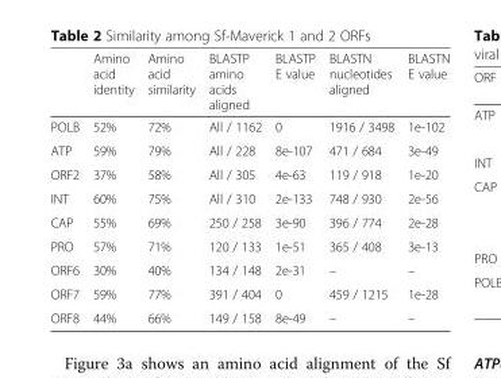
<table><thead><tr><td></td><td>Amino acid identity</td><td>Amino acid similarity</td><td>BLASTP amino acids aligned</td><td>BLASTP E value</td><td>BLASTN nucleotides aligned</td><td>BLASTN E value</td></tr></thead><tbody><tr><td>POLB</td><td>52%</td><td>72%</td><td>All / 1162</td><td>0</td><td>1916 / 3498</td><td>1e-102</td></tr><tr><td>ATP</td><td>59%</td><td>79%</td><td>All / 228</td><td>8e-107</td><td>471 / 684</td><td>3e-49</td></tr><tr><td>ORF2</td><td>37%</td><td>58%</td><td>All / 305</td><td>4e-63</td><td>119 / 918</td><td>1e-20</td></tr><tr><td>INT</td><td>60%</td><td>75%</td><td>All / 310</td><td>2e-133</td><td>748 / 930</td><td>2e-56</td></tr><tr><td>CAP</td><td>55%</td><td>69%</td><td>250 / 258</td><td>3e-90</td><td>396 / 774</td><td>2e-28</td></tr><tr><td>PRO</td><td>57%</td><td>71%</td><td>120 / 133</td><td>1e-51</td><td>365 / 408</td><td>3e-13</td></tr><tr><td>ORF6</td><td>30%</td><td>40%</td><td>134 / 148</td><td>2e-31</td><td>–</td><td>–</td></tr><tr><td>ORF7</td><td>59%</td><td>77%</td><td>391 / 404</td><td>0</td><td>459 / 1215</td><td>1e-28</td></tr><tr><td>ORF8</td><td>44%</td><td>66%</td><td>149 / 158</td><td>8e-49</td><td>–</td><td>–</td></tr></tbody></table>